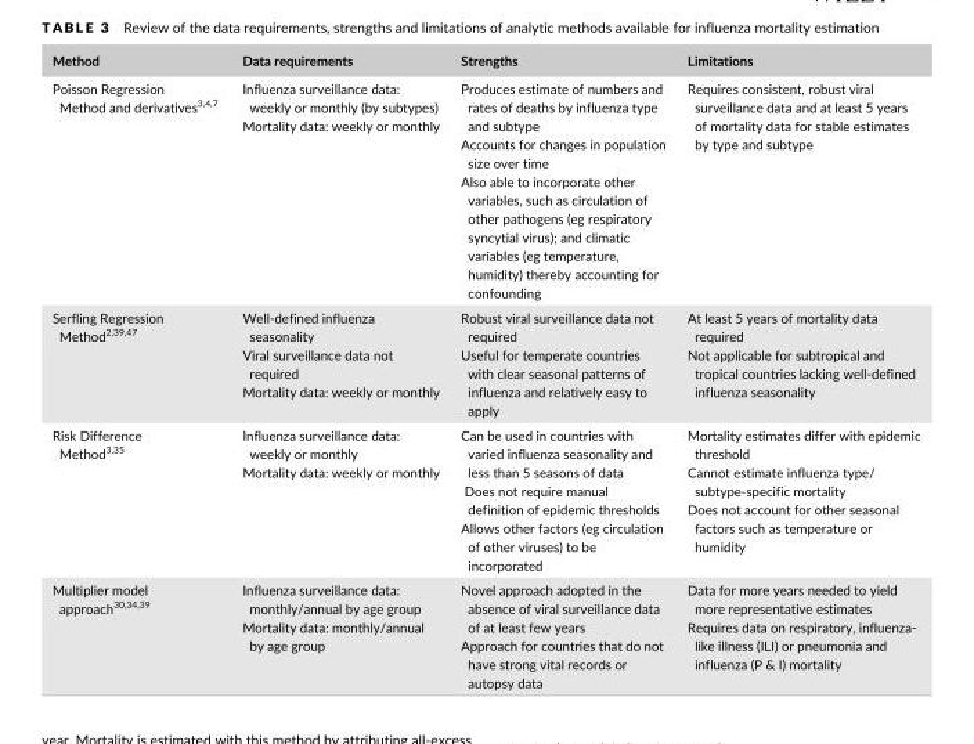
<table><thead><tr><td>Method</td><td>Data requirements</td><td>Strengths</td><td>Limitations</td></tr></thead><tbody><tr><td>Poisson Regression Method and derivatives<sup>3</sup>,<sup>4</sup>,<sup>7</sup></td><td>Influenza surveillance data: weekly or monthly (by subtypes) Mortality data: weekly or monthly</td><td>Produces estimate of numbers and rates of deaths by influenza type and subtype Accounts for changes in population size over time Also able to incorporate other variables, such as circulation of other pathogens (eg respiratory syncytial virus); and climatic variables (eg temperature, humidity) thereby accounting for confounding</td><td>Requires consistent, robust viral surveillance data and at least 5 years of mortality data for stable estimates by type and subtype</td></tr><tr><td>Serfling Regression Method<sup>2</sup>,<sup>39</sup>,<sup>47</sup></td><td>Well- defined influenza seasonality Viral surveillance data not required Mortality data: weekly or monthly</td><td>Robust viral surveillance data not required Useful for temperate countries with clear seasonal patterns of influenza and relatively easy to apply</td><td>At least 5 years of mortality data required Not applicable for subtropical and tropical countries lacking well- defined influenza seasonality</td></tr><tr><td>Risk Difference Method<sup>3</sup>,<sup>35</sup></td><td>Influenza surveillance data: weekly or monthly Mortality data: weekly or monthly</td><td>Can be used in countries with varied influenza seasonality and less than 5 seasons of data Does not require manual definition of epidemic thresholds Allows other factors (eg circulation of other viruses) to be incorporated</td><td>Mortality estimates differ with epidemic threshold Cannot estimate influenza type/ subtype- specific mortality Does not account for other seasonal factors such as temperature or humidity</td></tr><tr><td>Multiplier model approach<sup>30</sup>,<sup>34</sup>,<sup>39</sup></td><td>Influenza surveillance data: monthly/annual by age group Mortality data: monthly/annual by age group</td><td>Novel approach adopted in the absence of viral surveillance data of at least few years Approach for countries that do not have strong vital records or autopsy data</td><td>Data for more years needed to yield more representative estimates Requires data on respiratory, influenza- like illness (ILI) or pneumonia and influenza (P &amp; I) mortality</td></tr></tbody></table>